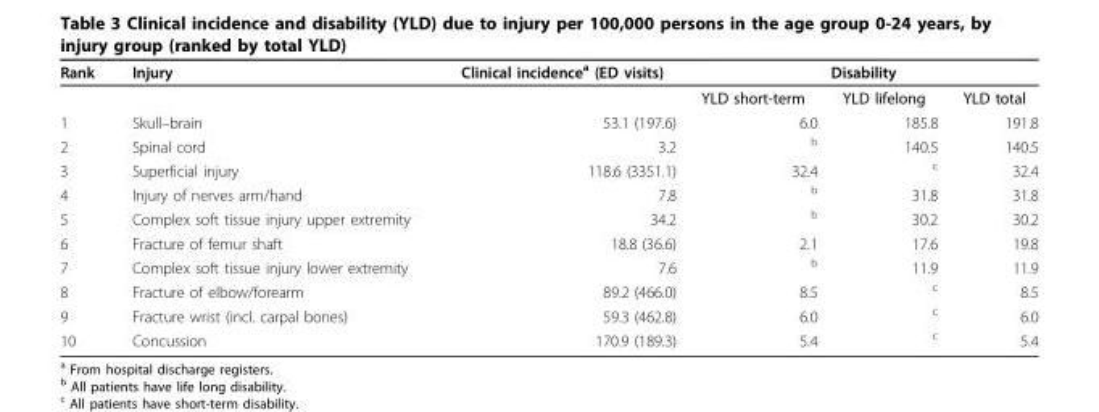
<table><thead><tr><td rowspan="2">Rank</td><td rowspan="2">Injury</td><td rowspan="2">Clinical incidence<sup>a</sup> (ED visits)</td><td colspan="3">Disability</td></tr><tr><td>YLD short-term</td><td>YLD lifelong</td><td>YLD total</td></tr></thead><tbody><tr><td>1</td><td>Skull–brain</td><td>53.1 (197.6)</td><td>6.0</td><td>185.8</td><td>191.8</td></tr><tr><td>2</td><td>Spinal cord</td><td>3.2</td><td><sup>b</sup></td><td>140.5</td><td>140.5</td></tr><tr><td>3</td><td>Superficial injury</td><td>118.6 (3351.1)</td><td>32.4</td><td><sup>c</sup></td><td>32.4</td></tr><tr><td>4</td><td>Injury of nerves arm/hand</td><td>7.8</td><td><sup>b</sup></td><td>31.8</td><td>31.8</td></tr><tr><td>5</td><td>Complex soft tissue injury upper extremity</td><td>34.2</td><td><sup>b</sup></td><td>30.2</td><td>30.2</td></tr><tr><td>6</td><td>Fracture of femur shaft</td><td>18.8 (36.6)</td><td>2.1</td><td>17.6</td><td>19.8</td></tr><tr><td>7</td><td>Complex soft tissue injury lower extremity</td><td>7.6</td><td><sup>b</sup></td><td>11.9</td><td>11.9</td></tr><tr><td>8</td><td>Fracture of elbow/forearm</td><td>89.2 (466.0)</td><td>8.5</td><td><sup>c</sup></td><td>8.5</td></tr><tr><td>9</td><td>Fracture wrist (incl. carpal bones)</td><td>59.3 (462.8)</td><td>6.0</td><td><sup>c</sup></td><td>6.0</td></tr><tr><td>10</td><td>Concussion</td><td>170.9 (189.3)</td><td>5.4</td><td><sup>c</sup></td><td>5.4</td></tr></tbody></table>